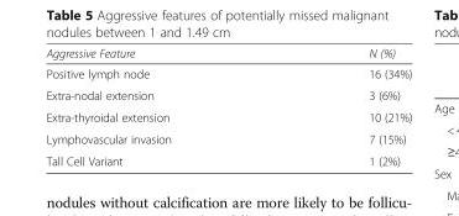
<table><thead><tr><td>Aggressive Feature</td><td>N (%)</td></tr></thead><tbody><tr><td>Positive lymph node</td><td>16 (34%)</td></tr><tr><td>Extra-nodal extension</td><td>3 (6%)</td></tr><tr><td>Extra-thyroidal extension</td><td>10 (21%)</td></tr><tr><td>Lymphovascular invasion</td><td>7 (15%)</td></tr><tr><td>Tall Cell Variant</td><td>1 (2%)</td></tr></tbody></table>